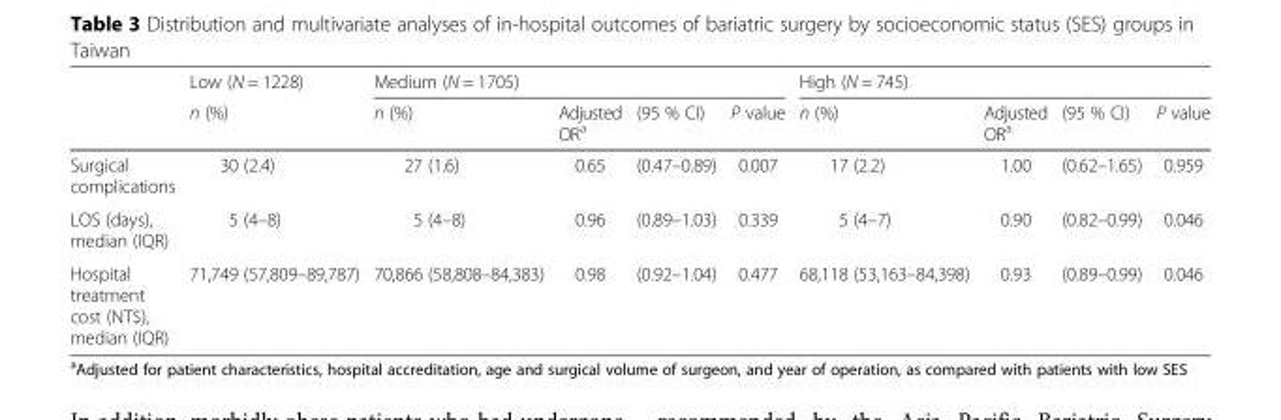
<table><thead><tr><td rowspan="2"></td><td rowspan="2">Low (N = 1228) n (%)</td><td colspan="4">Medium (N = 1705)</td><td colspan="4">High (N = 745)</td></tr><tr><td>n (%)</td><td>Adjusted OR<sup>a</sup></td><td>(95 % CI)</td><td>P value</td><td>n (%)</td><td>Adjusted OR<sup>a</sup></td><td>(95 % CI)</td><td>P value</td></tr></thead><tbody><tr><td>Surgical complications</td><td>30 (2.4)</td><td>27 (1.6)</td><td>0.65</td><td>(0.47–0.89)</td><td>0.007</td><td>17 (2.2)</td><td>1.00</td><td>(0.62–1.65)</td><td>0.959</td></tr><tr><td>LOS (days), median (IQR)</td><td>5 (4–8)</td><td>5 (4–8)</td><td>0.96</td><td>(0.89–1.03)</td><td>0.339</td><td>5 (4–7)</td><td>0.90</td><td>(0.82–0.99)</td><td>0.046</td></tr><tr><td>Hospital treatment cost (NT$), median (IQR)</td><td>71,749 (57,809–89,787)</td><td>70,866 (58,808–84,383)</td><td>0.98</td><td>(0.92–1.04)</td><td>0.477</td><td>68,118 (53,163–84,398)</td><td>0.93</td><td>(0.89–0.99)</td><td>0.046</td></tr></tbody></table>